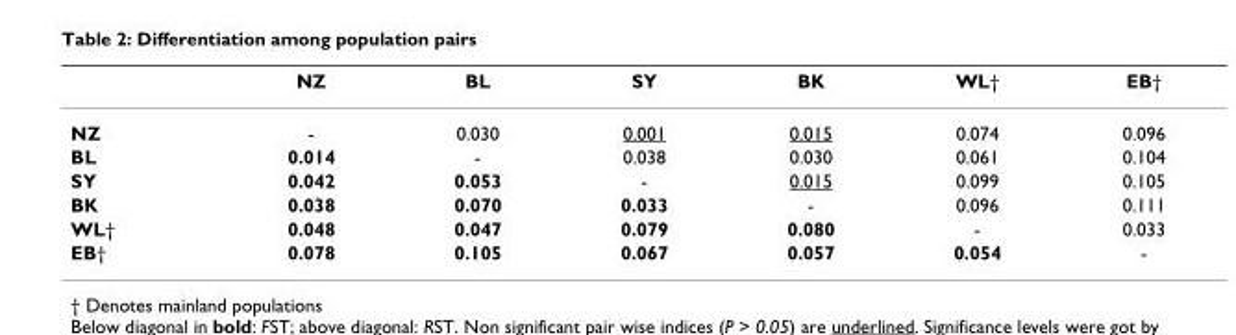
<table><thead><tr><td></td><td>NZ</td><td>BL</td><td>SY</td><td>BK</td><td>WL†</td><td>EB†</td></tr></thead><tbody><tr><td>NZ</td><td>-</td><td>0.030</td><td>0.001</td><td>0.015</td><td>0.074</td><td>0.096</td></tr><tr><td>BL</td><td>0.014</td><td>-</td><td>0.038</td><td>0.030</td><td>0.061</td><td>0.104</td></tr><tr><td>SY</td><td>0.042</td><td>0.053</td><td>-</td><td>0.015</td><td>0.099</td><td>0.105</td></tr><tr><td>BK</td><td>0.038</td><td>0.070</td><td>0.033</td><td>-</td><td>0.096</td><td>0.111</td></tr><tr><td>WL†</td><td>0.048</td><td>0.047</td><td>0.079</td><td>0.080</td><td>-</td><td>0.033</td></tr><tr><td>EB†</td><td>0.078</td><td>0.105</td><td>0.067</td><td>0.057</td><td>0.054</td><td>-</td></tr></tbody></table>